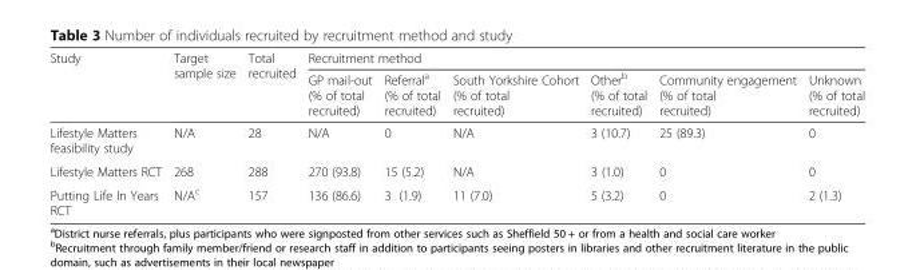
<table><thead><tr><td rowspan="2">Study</td><td rowspan="2">Target sample size</td><td rowspan="2">Total recruited</td><td colspan="6">Recruitment method</td></tr><tr><td>GP mail-out (% of total recruited)</td><td>Referral<sup>a</sup> (% of total recruited)</td><td>South Yorkshire Cohort (% of total recruited)</td><td>Other<sup>b</sup> (% of total recruited)</td><td>Community engagement (% of total recruited)</td><td>Unknown (% of total recruited)</td></tr></thead><tbody><tr><td>Lifestyle Matters feasibility study</td><td>N/A</td><td>28</td><td>N/A</td><td>0</td><td>N/A</td><td>3 (10.7)</td><td>25 (89.3)</td><td>0</td></tr><tr><td>Lifestyle Matters RCT</td><td>268</td><td>288</td><td>270 (93.8)</td><td>15 (5.2)</td><td>N/A</td><td>3 (1.0)</td><td>0</td><td>0</td></tr><tr><td>Putting Life In Years RCT</td><td>N/A<sup>c</sup></td><td>157</td><td>136 (86.6)</td><td>3 (1.9)</td><td>11 (7.0)</td><td>5 (3.2)</td><td>0</td><td>2 (1.3)</td></tr></tbody></table>